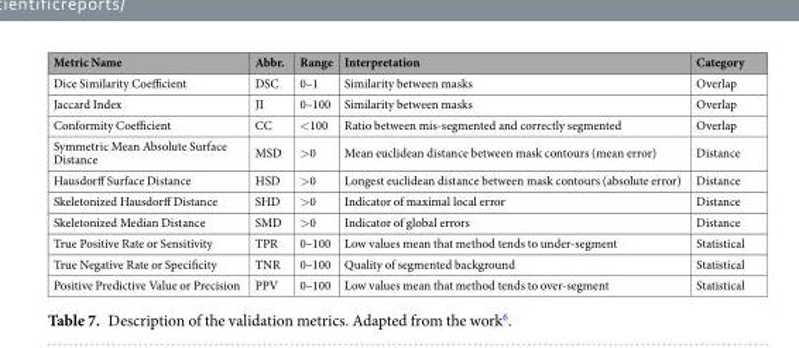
<table><thead><tr><td>Metric Name</td><td>Abbr.</td><td>Range</td><td>Interpretation</td><td>Category</td></tr></thead><tbody><tr><td>Dice Similarity Coefficient</td><td>DSC</td><td>0–1</td><td>Similarity between masks</td><td>Overlap</td></tr><tr><td>Jaccard Index</td><td>JI</td><td>0–100</td><td>Similarity between masks</td><td>Overlap</td></tr><tr><td>Conformity Coefficient</td><td>CC</td><td>&lt;100</td><td>Ratio between mis-segmented and correctly segmented</td><td>Overlap</td></tr><tr><td>Symmetric Mean Absolute Surface Distance</td><td>MSD</td><td>&gt;0</td><td>Mean euclidean distance between mask contours (mean error)</td><td>Distance</td></tr><tr><td>Hausdorff Surface Distance</td><td>HSD</td><td>&gt;0</td><td>Longest euclidean distance between mask contours (absolute error)</td><td>Distance</td></tr><tr><td>Skeletonized Hausdorff Distance</td><td>SHD</td><td>&gt;0</td><td>Indicator of maximal local error</td><td>Distance</td></tr><tr><td>Skeletonized Median Distance</td><td>SMD</td><td>&gt;0</td><td>Indicator of global errors</td><td>Distance</td></tr><tr><td>True Positive Rate or Sensitivity</td><td>TPR</td><td>0–100</td><td>Low values mean that method tends to under-segment</td><td>Statistical</td></tr><tr><td>True Negative Rate or Specificity</td><td>TNR</td><td>0–100</td><td>Quality of segmented background</td><td>Statistical</td></tr><tr><td>Positive Predictive Value or Precision</td><td>PPV</td><td>0–100</td><td>Low values mean that method tends to over-segment</td><td>Statistical</td></tr></tbody></table>